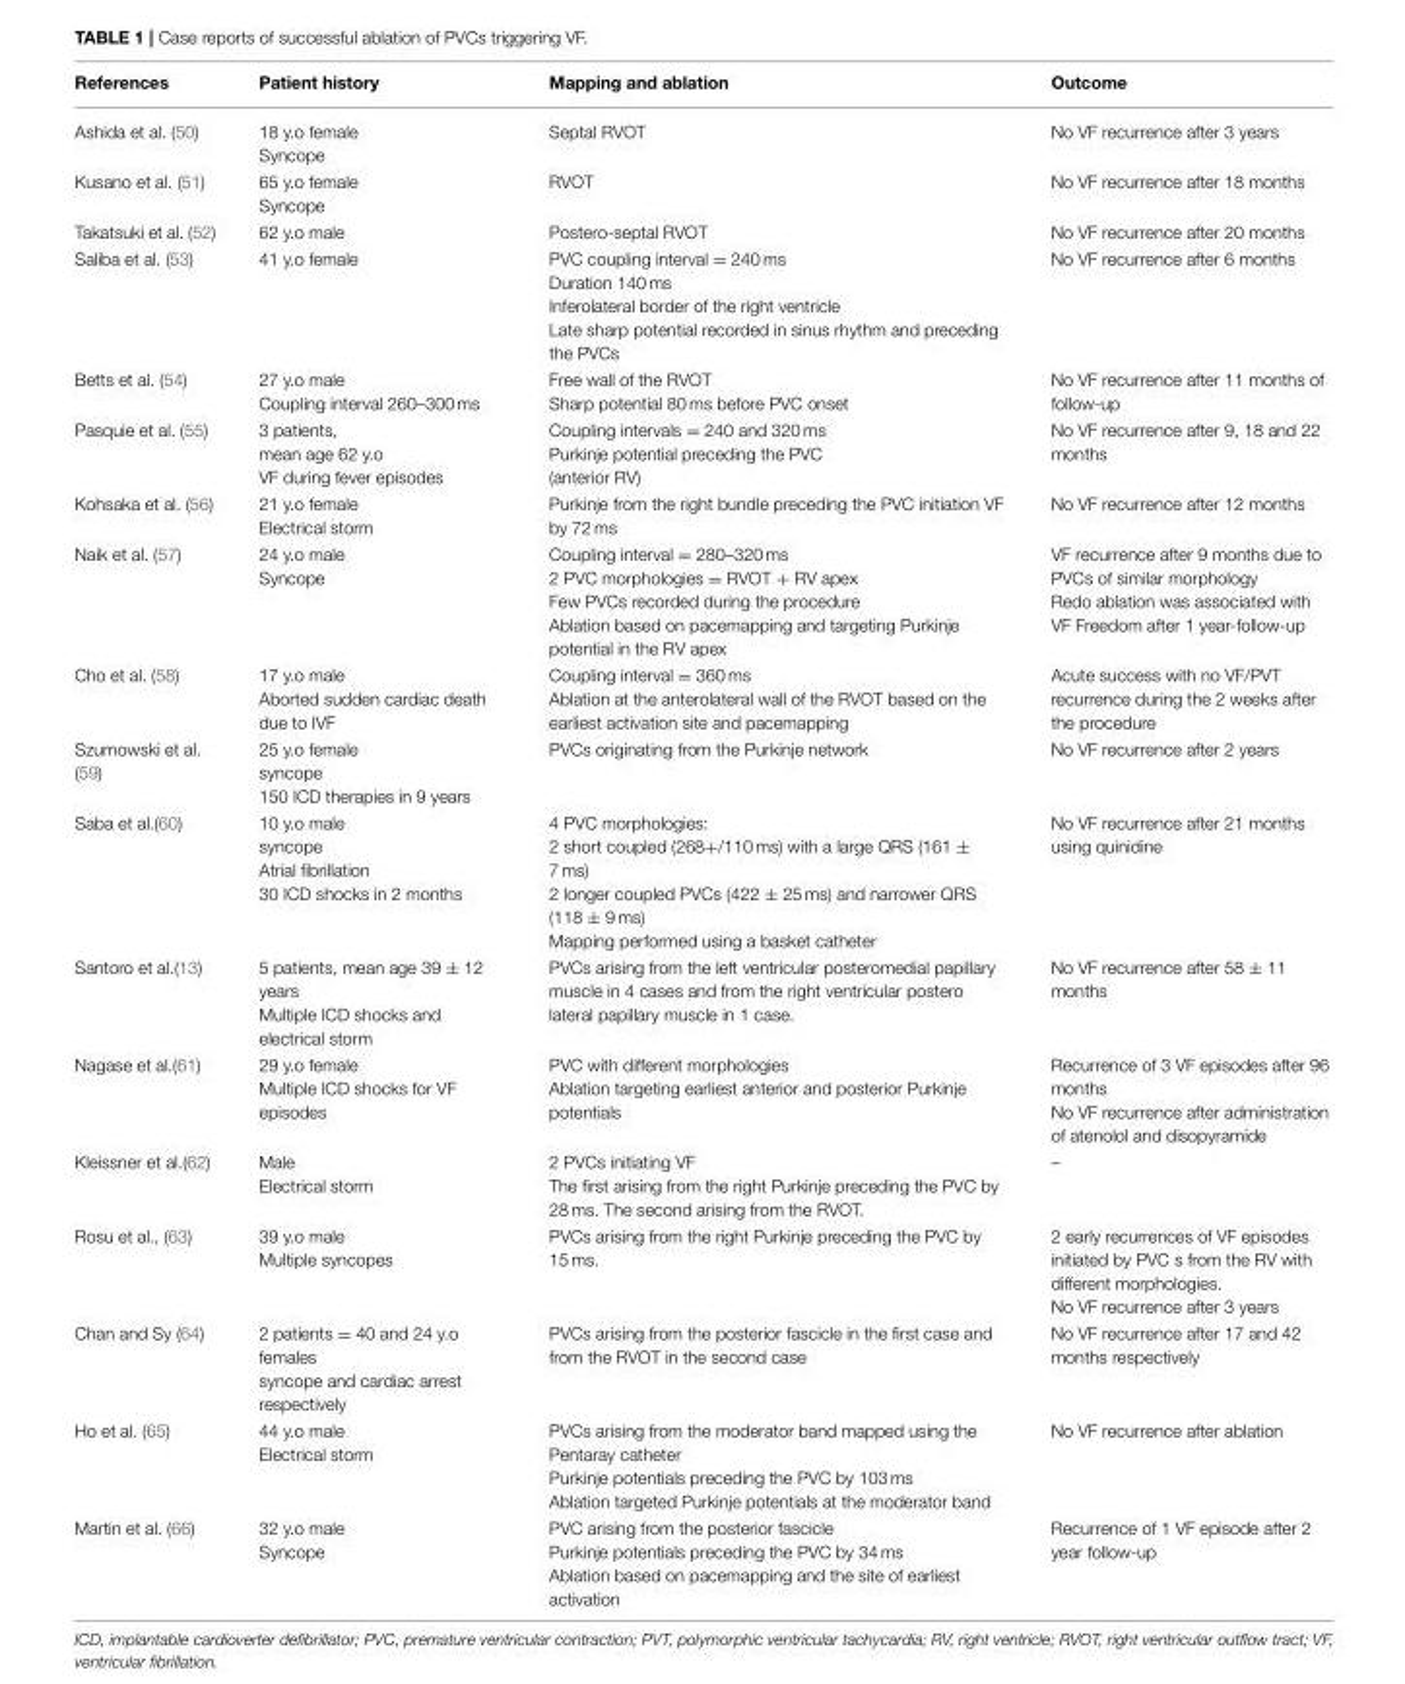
<table><thead><tr><td>References</td><td>Patient history</td><td>Mapping and ablation</td><td>Outcome</td></tr></thead><tbody><tr><td>Ashida et al. (50)</td><td>18 y.o female Syncope</td><td>Septal RVOT</td><td>No VF recurrence after 3 years</td></tr><tr><td>Kusano et al. (51)</td><td>65 y.o female Syncope</td><td>RVOT</td><td>No VF recurrence after 18 months</td></tr><tr><td>Takatsuki et al. (52)</td><td>62 y.o male</td><td>Postero-septal RVOT</td><td>No VF recurrence after 20 months</td></tr><tr><td>Saliba et al. (53)</td><td>41 y.o female</td><td>PVC coupling interval = 240 ms Duration 140 ms Inferolateral border of the right ventricle Late sharp potential recorded in sinus rhythm and preceding the PVCs</td><td>No VF recurrence after 6 months</td></tr><tr><td>Betts et al. (54)</td><td>27 y.o male Coupling interval 260–300 ms</td><td>Free wall of the RVOT Sharp potential 80 ms before PVC onset</td><td>No VF recurrence after 11 months of follow-up</td></tr><tr><td>Pasquie et al. (55)</td><td>3 patients, mean age 62 y.o VF during fever episodes</td><td>Coupling intervals = 240 and 320 ms Purkinje potential preceding the PVC (anterior RV)</td><td>No VF recurrence after 9, 18 and 22 months</td></tr><tr><td>Kohsaka et al. (56)</td><td>21 y.o female Electrical storm</td><td>Purkinje from the right bundle preceding the PVC initiation VF by 72 ms</td><td>No VF recurrence after 12 months</td></tr><tr><td>Naik et al. (57)</td><td>24 y.o male Syncope</td><td>Coupling interval = 280–320 ms 2 PVC morphologies = RVOT + RV apex Few PVCs recorded during the procedure Ablation based on pacemapping and targeting Purkinje potential in the RV apex</td><td>VF recurrence after 9 months due to PVCs of similar morphology Redo ablation was associated with VF Freedom after 1 year-follow-up</td></tr><tr><td>Cho et al. (58)</td><td>17 y.o male Aborted sudden cardiac death due to IVF</td><td>Coupling interval = 360 ms Ablation at the anterolateral wall of the RVOT based on the earliest activation site and pacemapping</td><td>Acute success with no VF/PVT recurrence during the 2 weeks after the procedure</td></tr><tr><td>Szumowski et al. (59)</td><td>25 y.o female syncope 150 ICD therapies in 9 years</td><td>PVCs originating from the Purkinje network</td><td>No VF recurrence after 2 years</td></tr><tr><td>Saba et al.(60)</td><td>10 y.o male syncope Atrial fibrillation 30 ICD shocks in 2 months</td><td>4 PVC morphologies: 2 short coupled (268+/110 ms) with a large QRS (161 ± 7 ms) 2 longer coupled PVCs (422 ± 25 ms) and narrower QRS (118 ± 9 ms) Mapping performed using a basket catheter</td><td>No VF recurrence after 21 months using quinidine</td></tr><tr><td>Santoro et al.(13)</td><td>5 patients, mean age 39 ± 12 years Multiple ICD shocks and electrical storm</td><td>PVCs arising from the left ventricular posteromedial papillary muscle in 4 cases and from the right ventricular postero lateral papillary muscle in 1 case.</td><td>No VF recurrence after 58 ± 11 months</td></tr><tr><td>Nagase et al.(61)</td><td>29 y.o female Multiple ICD shocks for VF episodes</td><td>PVC with different morphologies Ablation targeting earliest anterior and posterior Purkinje potentials</td><td>Recurrence of 3 VF episodes after 96 months No VF recurrence after administration of atenolol and disopyramide</td></tr><tr><td>Kleissner et al.(62)</td><td>Male Electrical storm</td><td>2 PVCs initiating VF The first arising from the right Purkinje preceding the PVC by 28 ms. The second arising from the RVOT.</td><td>–</td></tr><tr><td>Rosu et al., (63)</td><td>39 y.o male Multiple syncopes</td><td>PVCs arising from the right Purkinje preceding the PVC by 15 ms.</td><td>2 early recurrences of VF episodes initiated by PVC s from the RV with different morphologies. No VF recurrence after 3 years</td></tr><tr><td>Chan and Sy (64)</td><td>2 patients = 40 and 24 y.o females syncope and cardiac arrest respectively</td><td>PVCs arising from the posterior fascicle in the first case and from the RVOT in the second case</td><td>No VF recurrence after 17 and 42 months respectively</td></tr><tr><td>Ho et al. (65)</td><td>44 y.o male Electrical storm</td><td>PVCs arising from the moderator band mapped using the Pentaray catheter Purkinje potentials preceding the PVC by 103 ms Ablation targeted Purkinje potentials at the moderator band</td><td>No VF recurrence after ablation</td></tr><tr><td>Martin et al. (66)</td><td>32 y.o male Syncope</td><td>PVC arising from the posterior fascicle Purkinje potentials preceding the PVC by 34 ms Ablation based on pacemapping and the site of earliest activation</td><td>Recurrence of 1 VF episode after 2 year follow-up</td></tr></tbody></table>